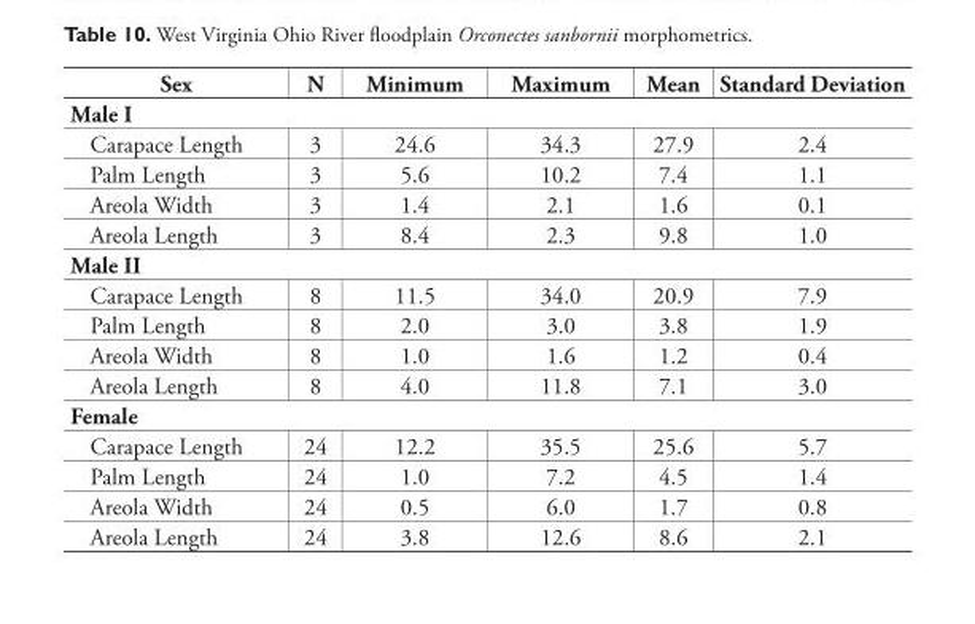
<table><thead><tr><td>Sex</td><td>N</td><td>Minimum</td><td>Maximum</td><td>Mean</td><td>Standard Deviation</td></tr></thead><tbody><tr><td colspan="6">Male I</td></tr><tr><td>Carapace Length</td><td>3</td><td>24.6</td><td>34.3</td><td>27.9</td><td>2.4</td></tr><tr><td>Palm Length</td><td>3</td><td>5.6</td><td>10.2</td><td>7.4</td><td>1.1</td></tr><tr><td>Areola Width</td><td>3</td><td>1.4</td><td>2.1</td><td>1.6</td><td>0.1</td></tr><tr><td>Areola Length</td><td>3</td><td>8.4</td><td>2.3</td><td>9.8</td><td>1.0</td></tr><tr><td colspan="6">Male II</td></tr><tr><td>Carapace Length</td><td>8</td><td>11.5</td><td>34.0</td><td>20.9</td><td>7.9</td></tr><tr><td>Palm Length</td><td>8</td><td>2.0</td><td>3.0</td><td>3.8</td><td>1.9</td></tr><tr><td>Areola Width</td><td>8</td><td>1.0</td><td>1.6</td><td>1.2</td><td>0.4</td></tr><tr><td>Areola Length</td><td>8</td><td>4.0</td><td>11.8</td><td>7.1</td><td>3.0</td></tr><tr><td colspan="6">Female</td></tr><tr><td>Carapace Length</td><td>24</td><td>12.2</td><td>35.5</td><td>25.6</td><td>5.7</td></tr><tr><td>Palm Length</td><td>24</td><td>1.0</td><td>7.2</td><td>4.5</td><td>1.4</td></tr><tr><td>Areola Width</td><td>24</td><td>0.5</td><td>6.0</td><td>1.7</td><td>0.8</td></tr><tr><td>Areola Length</td><td>24</td><td>3.8</td><td>12.6</td><td>8.6</td><td>2.1</td></tr></tbody></table>